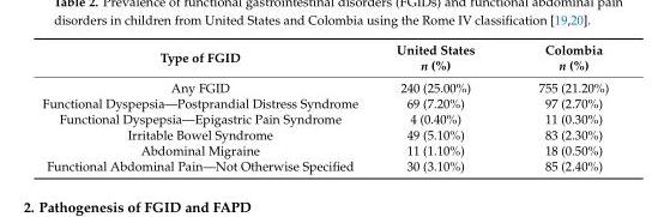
<table><thead><tr><td>Type of FGID</td><td>United States n (%)</td><td>Colombia n (%)</td></tr></thead><tbody><tr><td>Any FGID</td><td>240 (25.00%)</td><td>755 (21.20%)</td></tr><tr><td>Functional Dyspepsia—Postprandial Distress Syndrome</td><td>69 (7.20%)</td><td>97 (2.70%)</td></tr><tr><td>Functional Dyspepsia—Epigastric Pain Syndrome</td><td>4 (0.40%)</td><td>11 (0.30%)</td></tr><tr><td>Irritable Bowel Syndrome</td><td>49 (5.10%)</td><td>83 (2.30%)</td></tr><tr><td>Abdominal Migraine</td><td>11 (1.10%)</td><td>18 (0.50%)</td></tr><tr><td>Functional Abdominal Pain—Not Otherwise Specified</td><td>30 (3.10%)</td><td>85 (2.40%)</td></tr></tbody></table>